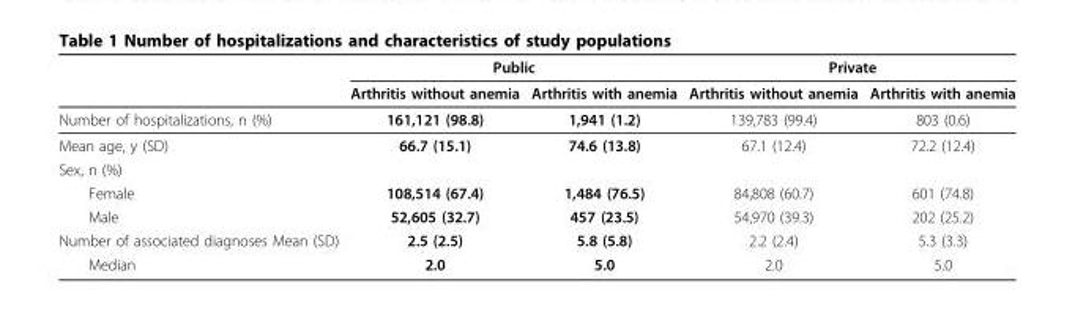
<table><thead><tr><td rowspan="2"></td><td colspan="2">Public</td><td colspan="2">Private</td></tr><tr><td>Arthritis without anemia</td><td>Arthritis with anemia</td><td>Arthritis without anemia</td><td>Arthritis with anemia</td></tr></thead><tbody><tr><td>Number of hospitalizations, n (%)</td><td>161,121 (98.8)</td><td>1,941 (1.2)</td><td>139,783 (99.4)</td><td>803 (0.6)</td></tr><tr><td>Mean age, y (SD)</td><td>66.7 (15.1)</td><td>74.6 (13.8)</td><td>67.1 (12.4)</td><td>72.2 (12.4)</td></tr><tr><td colspan="5">Sex, n (%)</td></tr><tr><td>Female</td><td>108,514 (67.4)</td><td>1,484 (76.5)</td><td>84,808 (60.7)</td><td>601 (74.8)</td></tr><tr><td>Male</td><td>52,605 (32.7)</td><td>457 (23.5)</td><td>54,970 (39.3)</td><td>202 (25.2)</td></tr><tr><td>Number of associated diagnoses Mean (SD)</td><td>2.5 (2.5)</td><td>5.8 (5.8)</td><td>2.2 (2.4)</td><td>5.3 (3.3)</td></tr><tr><td>Median</td><td>2.0</td><td>5.0</td><td>2.0</td><td>5.0</td></tr></tbody></table>